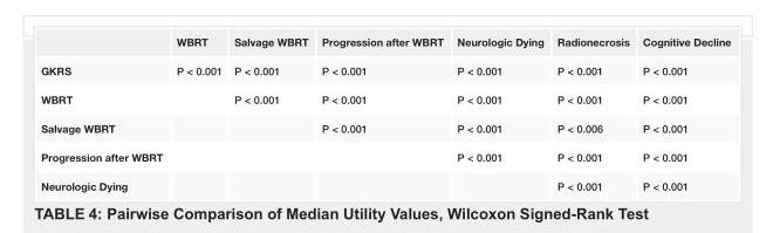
<table><thead><tr><td></td><td>WBRT</td><td>Salvage WBRT</td><td>Progression after WBRT</td><td>Neurologic Dying</td><td>Radionecrosis</td><td>Cognitive Decline</td></tr></thead><tbody><tr><td>GKRS</td><td>P &lt; 0.001</td><td>P &lt; 0.001</td><td>P &lt; 0.001</td><td>P &lt; 0.001</td><td>P &lt; 0.001</td><td>P &lt; 0.001</td></tr><tr><td>WBRT</td><td></td><td>P &lt; 0.001</td><td>P &lt; 0.001</td><td>P &lt; 0.001</td><td>P &lt; 0.001</td><td>P &lt; 0.001</td></tr><tr><td>Salvage WBRT</td><td></td><td></td><td>P &lt; 0.001</td><td>P &lt; 0.001</td><td>P &lt; 0.006</td><td>P &lt; 0.001</td></tr><tr><td>Progression after WBRT</td><td></td><td></td><td></td><td>P &lt; 0.001</td><td>P &lt; 0.001</td><td>P &lt; 0.001</td></tr><tr><td>Neurologic Dying</td><td></td><td></td><td></td><td></td><td>P &lt; 0.001</td><td>P &lt; 0.001</td></tr></tbody></table>